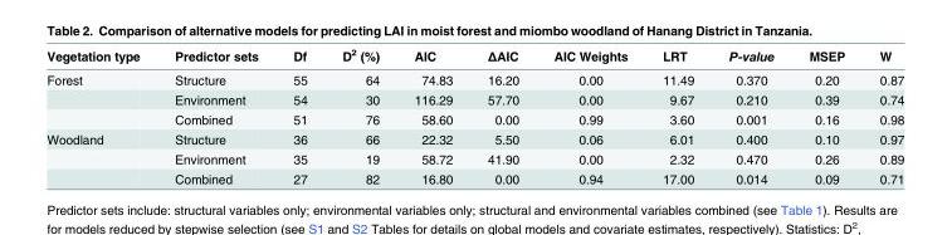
<table><thead><tr><td>Vegetation type</td><td>Predictor sets</td><td>Df</td><td>D<sup>2</sup> (%)</td><td>AIC</td><td>ΔAIC</td><td>AIC Weights</td><td>LRT</td><td>P-value</td><td>MSEP</td><td>W</td></tr></thead><tbody><tr><td rowspan="3">Forest</td><td>Structure</td><td>55</td><td>64</td><td>74.83</td><td>16.20</td><td>0.00</td><td>11.49</td><td>0.370</td><td>0.20</td><td>0.87</td></tr><tr><td>Environment</td><td>54</td><td>30</td><td>116.29</td><td>57.70</td><td>0.00</td><td>9.67</td><td>0.210</td><td>0.39</td><td>0.74</td></tr><tr><td>Combined</td><td>51</td><td>76</td><td>58.60</td><td>0.00</td><td>0.99</td><td>3.60</td><td>0.001</td><td>0.16</td><td>0.98</td></tr><tr><td rowspan="3">Woodland</td><td>Structure</td><td>36</td><td>66</td><td>22.32</td><td>5.50</td><td>0.06</td><td>6.01</td><td>0.400</td><td>0.10</td><td>0.97</td></tr><tr><td>Environment</td><td>35</td><td>19</td><td>58.72</td><td>41.90</td><td>0.00</td><td>2.32</td><td>0.470</td><td>0.26</td><td>0.89</td></tr><tr><td>Combined</td><td>27</td><td>82</td><td>16.80</td><td>0.00</td><td>0.94</td><td>17.00</td><td>0.014</td><td>0.09</td><td>0.71</td></tr></tbody></table>